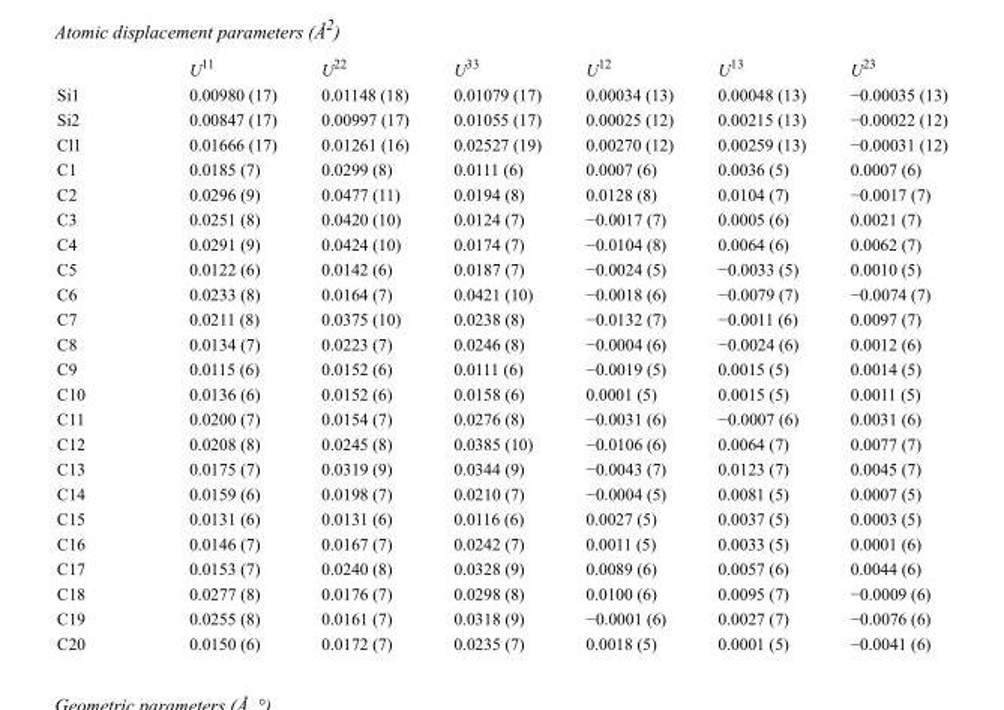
<table><thead><tr><td></td><td>U<sup>11</sup></td><td>U<sup>22</sup></td><td>U<sup>33</sup></td><td>U<sup>12</sup></td><td>U<sup>13</sup></td><td>U<sup>23</sup></td></tr></thead><tbody><tr><td>Si1</td><td>0.00980 (17)</td><td>0.01148 (18)</td><td>0.01079 (17)</td><td>0.00034 (13)</td><td>0.00048 (13)</td><td>−0.00035 (13)</td></tr><tr><td>Si2</td><td>0.00847 (17)</td><td>0.00997 (17)</td><td>0.01055 (17)</td><td>0.00025 (12)</td><td>0.00215 (13)</td><td>−0.00022 (12)</td></tr><tr><td>Cl1</td><td>0.01666 (17)</td><td>0.01261 (16)</td><td>0.02527 (19)</td><td>0.00270 (12)</td><td>0.00259 (13)</td><td>−0.00031 (12)</td></tr><tr><td>C1</td><td>0.0185 (7)</td><td>0.0299 (8)</td><td>0.0111 (6)</td><td>0.0007 (6)</td><td>0.0036 (5)</td><td>0.0007 (6)</td></tr><tr><td>C2</td><td>0.0296 (9)</td><td>0.0477 (11)</td><td>0.0194 (8)</td><td>0.0128 (8)</td><td>0.0104 (7)</td><td>−0.0017 (7)</td></tr><tr><td>C3</td><td>0.0251 (8)</td><td>0.0420 (10)</td><td>0.0124 (7)</td><td>−0.0017 (7)</td><td>0.0005 (6)</td><td>0.0021 (7)</td></tr><tr><td>C4</td><td>0.0291 (9)</td><td>0.0424 (10)</td><td>0.0174 (7)</td><td>−0.0104 (8)</td><td>0.0064 (6)</td><td>0.0062 (7)</td></tr><tr><td>C5</td><td>0.0122 (6)</td><td>0.0142 (6)</td><td>0.0187 (7)</td><td>−0.0024 (5)</td><td>−0.0033 (5)</td><td>0.0010 (5)</td></tr><tr><td>C6</td><td>0.0233 (8)</td><td>0.0164 (7)</td><td>0.0421 (10)</td><td>−0.0018 (6)</td><td>−0.0079 (7)</td><td>−0.0074 (7)</td></tr><tr><td>C7</td><td>0.0211 (8)</td><td>0.0375 (10)</td><td>0.0238 (8)</td><td>−0.0132 (7)</td><td>−0.0011 (6)</td><td>0.0097 (7)</td></tr><tr><td>C8</td><td>0.0134 (7)</td><td>0.0223 (7)</td><td>0.0246 (8)</td><td>−0.0004 (6)</td><td>−0.0024 (6)</td><td>0.0012 (6)</td></tr><tr><td>C9</td><td>0.0115 (6)</td><td>0.0152 (6)</td><td>0.0111 (6)</td><td>−0.0019 (5)</td><td>0.0015 (5)</td><td>0.0014 (5)</td></tr><tr><td>C10</td><td>0.0136 (6)</td><td>0.0152 (6)</td><td>0.0158 (6)</td><td>0.0001 (5)</td><td>0.0015 (5)</td><td>0.0011 (5)</td></tr><tr><td>C11</td><td>0.0200 (7)</td><td>0.0154 (7)</td><td>0.0276 (8)</td><td>−0.0031 (6)</td><td>−0.0007 (6)</td><td>0.0031 (6)</td></tr><tr><td>C12</td><td>0.0208 (8)</td><td>0.0245 (8)</td><td>0.0385 (10)</td><td>−0.0106 (6)</td><td>0.0064 (7)</td><td>0.0077 (7)</td></tr><tr><td>C13</td><td>0.0175 (7)</td><td>0.0319 (9)</td><td>0.0344 (9)</td><td>−0.0043 (7)</td><td>0.0123 (7)</td><td>0.0045 (7)</td></tr><tr><td>C14</td><td>0.0159 (6)</td><td>0.0198 (7)</td><td>0.0210 (7)</td><td>−0.0004 (5)</td><td>0.0081 (5)</td><td>0.0007 (5)</td></tr><tr><td>C15</td><td>0.0131 (6)</td><td>0.0131 (6)</td><td>0.0116 (6)</td><td>0.0027 (5)</td><td>0.0037 (5)</td><td>0.0003 (5)</td></tr><tr><td>C16</td><td>0.0146 (7)</td><td>0.0167 (7)</td><td>0.0242 (7)</td><td>0.0011 (5)</td><td>0.0033 (5)</td><td>0.0001 (6)</td></tr><tr><td>C17</td><td>0.0153 (7)</td><td>0.0240 (8)</td><td>0.0328 (9)</td><td>0.0089 (6)</td><td>0.0057 (6)</td><td>0.0044 (6)</td></tr><tr><td>C18</td><td>0.0277 (8)</td><td>0.0176 (7)</td><td>0.0298 (8)</td><td>0.0100 (6)</td><td>0.0095 (7)</td><td>−0.0009 (6)</td></tr><tr><td>C19</td><td>0.0255 (8)</td><td>0.0161 (7)</td><td>0.0318 (9)</td><td>−0.0001 (6)</td><td>0.0027 (7)</td><td>−0.0076 (6)</td></tr><tr><td>C20</td><td>0.0150 (6)</td><td>0.0172 (7)</td><td>0.0235 (7)</td><td>0.0018 (5)</td><td>0.0001 (5)</td><td>−0.0041 (6)</td></tr></tbody></table>